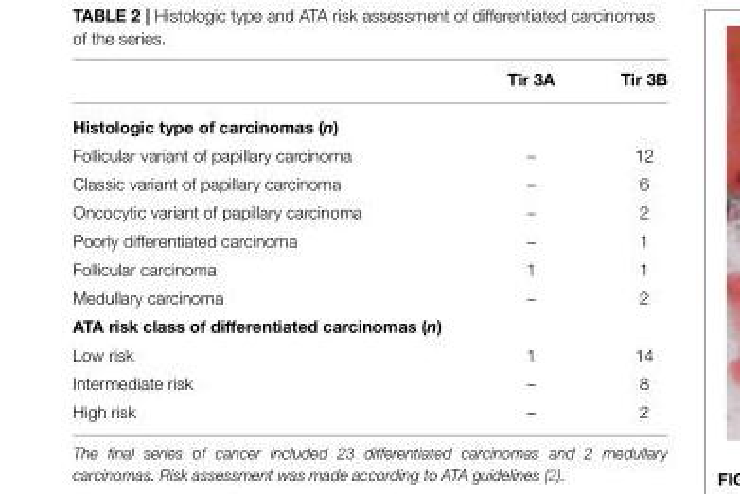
<table><thead><tr><td></td><td>Tir 3A</td><td>Tir 3B</td></tr></thead><tbody><tr><td colspan="3">Histologic type of carcinomas (n)</td></tr><tr><td>Follicular variant of papillary carcinoma</td><td>–</td><td>12</td></tr><tr><td>Classic variant of papillary carcinoma</td><td>–</td><td>6</td></tr><tr><td>Oncocytic variant of papillary carcinoma</td><td>–</td><td>2</td></tr><tr><td>Poorly differentiated carcinoma</td><td>–</td><td>1</td></tr><tr><td>Follicular carcinoma</td><td>1</td><td>1</td></tr><tr><td>Medullary carcinoma</td><td>–</td><td>2</td></tr><tr><td colspan="3">ATA risk class of differentiated carcinomas (n)</td></tr><tr><td>Low risk</td><td>1</td><td>14</td></tr><tr><td>Intermediate risk</td><td>–</td><td>8</td></tr><tr><td>High risk</td><td>–</td><td>2</td></tr></tbody></table>